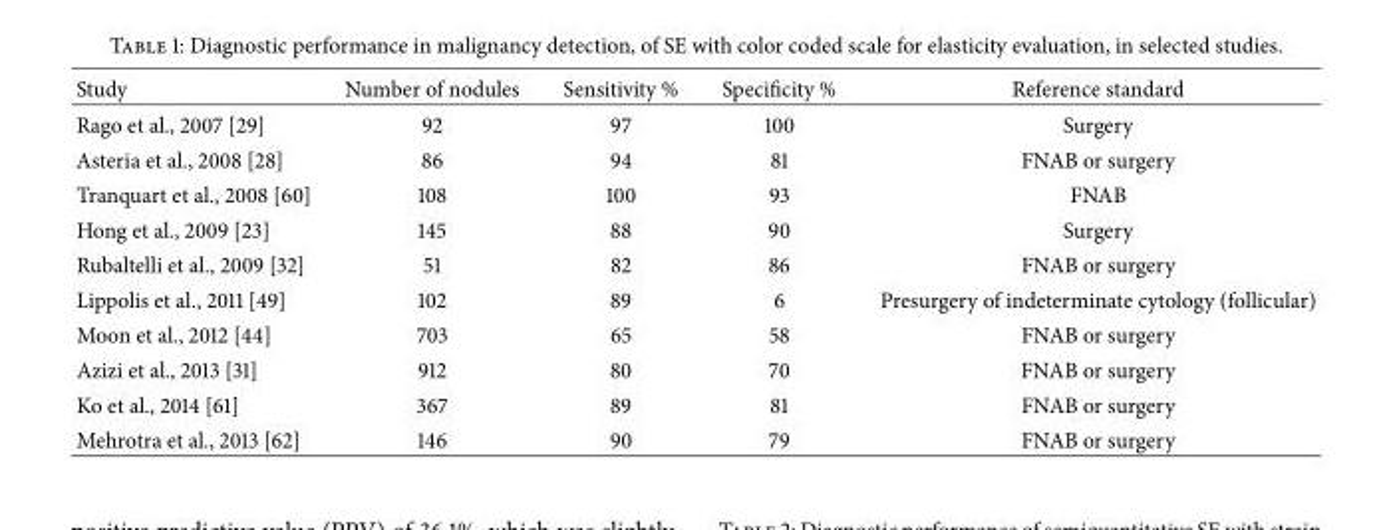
<table><thead><tr><td>Study</td><td>Number of nodules</td><td>Sensitivity %</td><td>Specificity %</td><td>Reference standard</td></tr></thead><tbody><tr><td>Rago et al., 2007 [29]</td><td>92</td><td>97</td><td>100</td><td>Surgery</td></tr><tr><td>Asteria et al., 2008 [28]</td><td>86</td><td>94</td><td>81</td><td>FNAB or surgery</td></tr><tr><td>Tranquart et al., 2008 [60]</td><td>108</td><td>100</td><td>93</td><td>FNAB</td></tr><tr><td>Hong et al., 2009 [23]</td><td>145</td><td>88</td><td>90</td><td>Surgery</td></tr><tr><td>Rubaltelli et al., 2009 [32]</td><td>51</td><td>82</td><td>86</td><td>FNAB or surgery</td></tr><tr><td>Lippolis et al., 2011 [49]</td><td>102</td><td>89</td><td>6</td><td>Presurgery of indeterminate cytology (follicular)</td></tr><tr><td>Moon et al., 2012 [44]</td><td>703</td><td>65</td><td>58</td><td>FNAB or surgery</td></tr><tr><td>Azizi et al., 2013 [31]</td><td>912</td><td>80</td><td>70</td><td>FNAB or surgery</td></tr><tr><td>Ko et al., 2014 [61]</td><td>367</td><td>89</td><td>81</td><td>FNAB or surgery</td></tr><tr><td>Mehrotra et al., 2013 [62]</td><td>146</td><td>90</td><td>79</td><td>FNAB or surgery</td></tr></tbody></table>